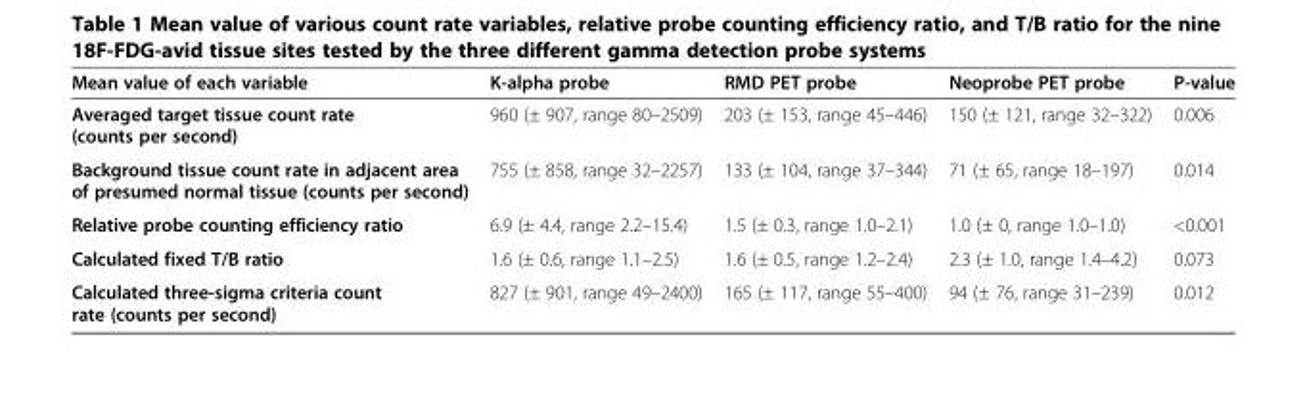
<table><thead><tr><td>Mean value of each variable</td><td>K-alpha probe</td><td>RMD PET probe</td><td>Neoprobe PET probe</td><td>P-value</td></tr></thead><tbody><tr><td>Averaged target tissue count rate (counts per second)</td><td>960 (± 907, range 80–2509)</td><td>203 (± 153, range 45–446)</td><td>150 (± 121, range 32–322)</td><td>0.006</td></tr><tr><td>Background tissue count rate in adjacent area of presumed normal tissue (counts per second)</td><td>755 (± 858, range 32–2257)</td><td>133 (± 104, range 37–344)</td><td>71 (± 65, range 18–197)</td><td>0.014</td></tr><tr><td>Relative probe counting efficiency ratio</td><td>6.9 (± 4.4, range 2.2–15.4)</td><td>1.5 (± 0.3, range 1.0–2.1)</td><td>1.0 (± 0, range 1.0–1.0)</td><td>&lt;0.001</td></tr><tr><td>Calculated fixed T/B ratio</td><td>1.6 (± 0.6, range 1.1–2.5)</td><td>1.6 (± 0.5, range 1.2–2.4)</td><td>2.3 (± 1.0, range 1.4–4.2)</td><td>0.073</td></tr><tr><td>Calculated three-sigma criteria count rate (counts per second)</td><td>827 (± 901, range 49–2400)</td><td>165 (± 117, range 55–400)</td><td>94 (± 76, range 31–239)</td><td>0.012</td></tr></tbody></table>